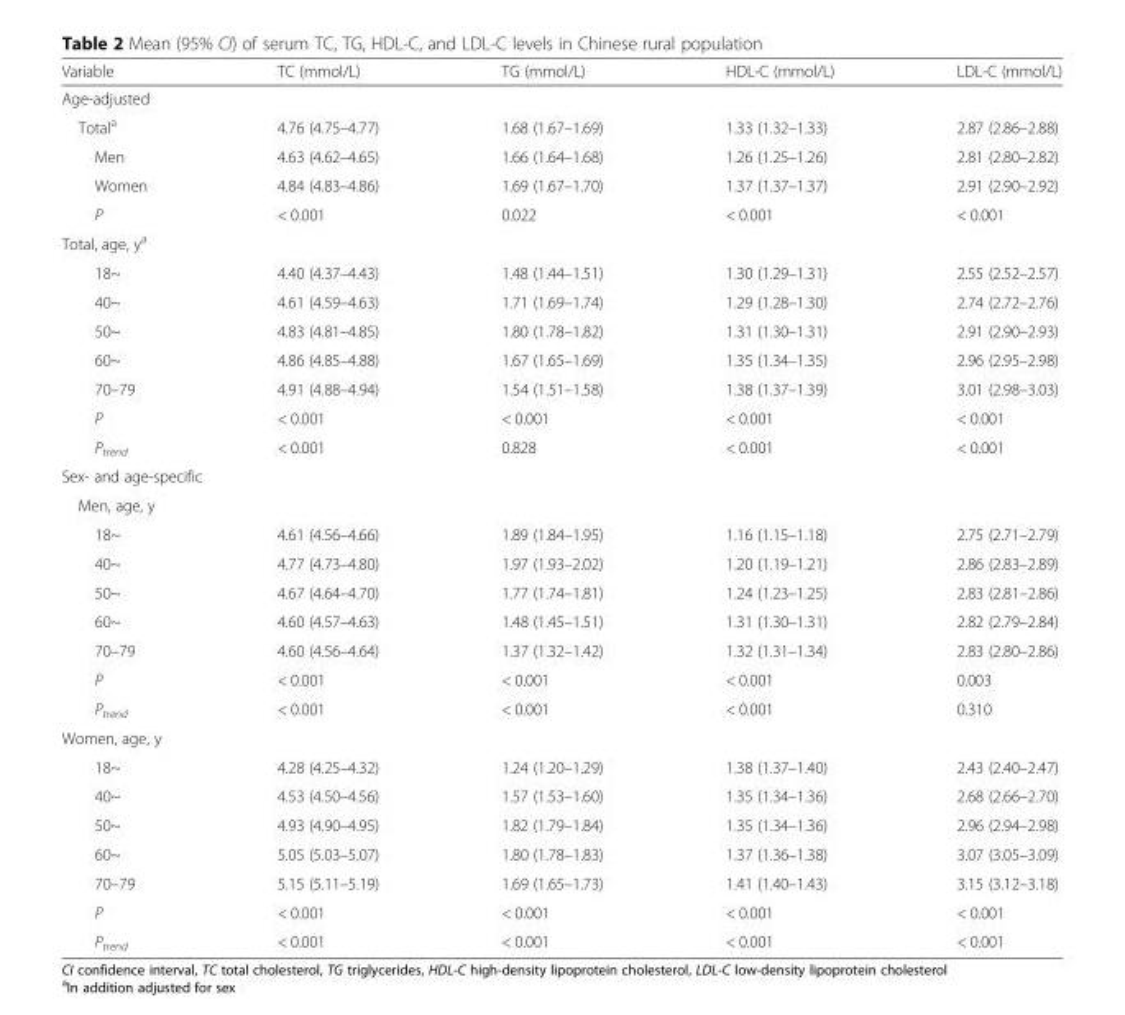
<table><thead><tr><td>Variable</td><td>TC (mmol/L)</td><td>TG (mmol/L)</td><td>HDL-C (mmol/L)</td><td>LDL-C (mmol/L)</td></tr></thead><tbody><tr><td colspan="5">Age-adjusted</td></tr><tr><td>Total<sup>a</sup></td><td>4.76 (4.75–4.77)</td><td>1.68 (1.67–1.69)</td><td>1.33 (1.32–1.33)</td><td>2.87 (2.86–2.88)</td></tr><tr><td>Men</td><td>4.63 (4.62–4.65)</td><td>1.66 (1.64–1.68)</td><td>1.26 (1.25–1.26)</td><td>2.81 (2.80–2.82)</td></tr><tr><td>Women</td><td>4.84 (4.83–4.86)</td><td>1.69 (1.67–1.70)</td><td>1.37 (1.37–1.37)</td><td>2.91 (2.90–2.92)</td></tr><tr><td>P</td><td>&lt; 0.001</td><td>0.022</td><td>&lt; 0.001</td><td>&lt; 0.001</td></tr><tr><td colspan="5">Total, age, y<sup>a</sup></td></tr><tr><td>18~</td><td>4.40 (4.37–4.43)</td><td>1.48 (1.44–1.51)</td><td>1.30 (1.29–1.31)</td><td>2.55 (2.52–2.57)</td></tr><tr><td>40~</td><td>4.61 (4.59–4.63)</td><td>1.71 (1.69–1.74)</td><td>1.29 (1.28–1.30)</td><td>2.74 (2.72–2.76)</td></tr><tr><td>50~</td><td>4.83 (4.81–4.85)</td><td>1.80 (1.78–1.82)</td><td>1.31 (1.30–1.31)</td><td>2.91 (2.90–2.93)</td></tr><tr><td>60~</td><td>4.86 (4.85–4.88)</td><td>1.67 (1.65–1.69)</td><td>1.35 (1.34–1.35)</td><td>2.96 (2.95–2.98)</td></tr><tr><td>70–79</td><td>4.91 (4.88–4.94)</td><td>1.54 (1.51–1.58)</td><td>1.38 (1.37–1.39)</td><td>3.01 (2.98–3.03)</td></tr><tr><td>P</td><td>&lt; 0.001</td><td>&lt; 0.001</td><td>&lt; 0.001</td><td>&lt; 0.001</td></tr><tr><td>P<sub>trend</sub></td><td>&lt; 0.001</td><td>0.828</td><td>&lt; 0.001</td><td>&lt; 0.001</td></tr><tr><td colspan="5">Sex- and age-specific</td></tr><tr><td colspan="5">Men, age, y</td></tr><tr><td>18~</td><td>4.61 (4.56–4.66)</td><td>1.89 (1.84–1.95)</td><td>1.16 (1.15–1.18)</td><td>2.75 (2.71–2.79)</td></tr><tr><td>40~</td><td>4.77 (4.73–4.80)</td><td>1.97 (1.93–2.02)</td><td>1.20 (1.19–1.21)</td><td>2.86 (2.83–2.89)</td></tr><tr><td>50~</td><td>4.67 (4.64–4.70)</td><td>1.77 (1.74–1.81)</td><td>1.24 (1.23–1.25)</td><td>2.83 (2.81–2.86)</td></tr><tr><td>60~</td><td>4.60 (4.57–4.63)</td><td>1.48 (1.45–1.51)</td><td>1.31 (1.30–1.31)</td><td>2.82 (2.79–2.84)</td></tr><tr><td>70–79</td><td>4.60 (4.56–4.64)</td><td>1.37 (1.32–1.42)</td><td>1.32 (1.31–1.34)</td><td>2.83 (2.80–2.86)</td></tr><tr><td>P</td><td>&lt; 0.001</td><td>&lt; 0.001</td><td>&lt; 0.001</td><td>0.003</td></tr><tr><td>P<sub>trend</sub></td><td>&lt; 0.001</td><td>&lt; 0.001</td><td>&lt; 0.001</td><td>0.310</td></tr><tr><td colspan="5">Women, age, y</td></tr><tr><td>18~</td><td>4.28 (4.25–4.32)</td><td>1.24 (1.20–1.29)</td><td>1.38 (1.37–1.40)</td><td>2.43 (2.40–2.47)</td></tr><tr><td>40~</td><td>4.53 (4.50–4.56)</td><td>1.57 (1.53–1.60)</td><td>1.35 (1.34–1.36)</td><td>2.68 (2.66–2.70)</td></tr><tr><td>50~</td><td>4.93 (4.90–4.95)</td><td>1.82 (1.79–1.84)</td><td>1.35 (1.34–1.36)</td><td>2.96 (2.94–2.98)</td></tr><tr><td>60~</td><td>5.05 (5.03–5.07)</td><td>1.80 (1.78–1.83)</td><td>1.37 (1.36–1.38)</td><td>3.07 (3.05–3.09)</td></tr><tr><td>70–79</td><td>5.15 (5.11–5.19)</td><td>1.69 (1.65–1.73)</td><td>1.41 (1.40–1.43)</td><td>3.15 (3.12–3.18)</td></tr><tr><td>P</td><td>&lt; 0.001</td><td>&lt; 0.001</td><td>&lt; 0.001</td><td>&lt; 0.001</td></tr><tr><td>P<sub>trend</sub></td><td>&lt; 0.001</td><td>&lt; 0.001</td><td>&lt; 0.001</td><td>&lt; 0.001</td></tr></tbody></table>